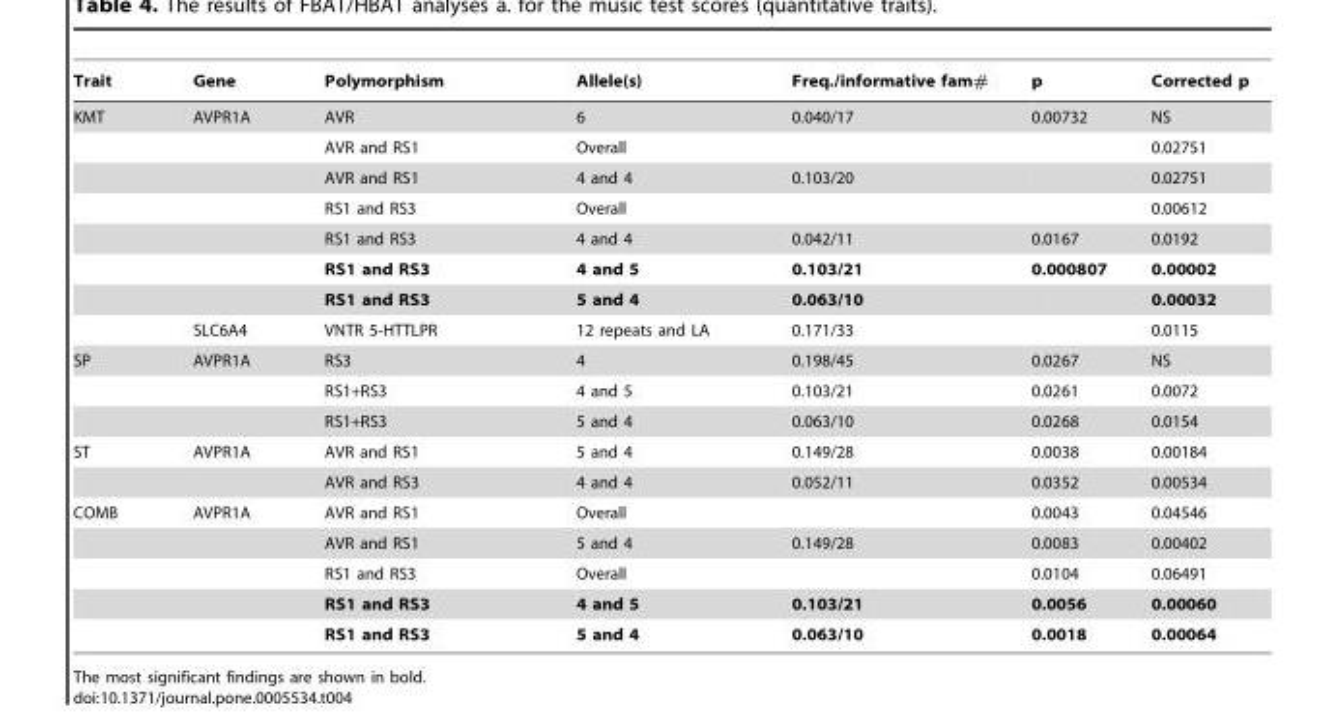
<table><thead><tr><td>Trait</td><td>Gene</td><td>Polymorphism</td><td>Allele(s)</td><td>Freq./informative fam#</td><td>p</td><td>Corrected p</td></tr></thead><tbody><tr><td rowspan="8">KMT</td><td>AVPR1A</td><td>AVR</td><td>6</td><td>0.040/17</td><td>0.00732</td><td>NS</td></tr><tr><td></td><td>AVR and RS1</td><td>Overall</td><td></td><td></td><td>0.02751</td></tr><tr><td></td><td>AVR and RS1</td><td>4 and 4</td><td>0.103/20</td><td></td><td>0.02751</td></tr><tr><td></td><td>RS1 and RS3</td><td>Overall</td><td></td><td></td><td>0.00612</td></tr><tr><td></td><td>RS1 and RS3</td><td>4 and 4</td><td>0.042/11</td><td>0.0167</td><td>0.0192</td></tr><tr><td></td><td>RS1 and RS3</td><td>4 and 5</td><td>0.103/21</td><td>0.000807</td><td>0.00002</td></tr><tr><td></td><td>RS1 and RS3</td><td>5 and 4</td><td>0.063/10</td><td></td><td>0.00032</td></tr><tr><td>SLC6A4</td><td>VNTR 5-HTTLPR</td><td>12 repeats and LA</td><td>0.171/33</td><td></td><td>0.0115</td></tr><tr><td rowspan="3">SP</td><td>AVPR1A</td><td>RS3</td><td>4</td><td>0.198/45</td><td>0.0267</td><td>NS</td></tr><tr><td></td><td>RS1+RS3</td><td>4 and 5</td><td>0.103/21</td><td>0.0261</td><td>0.0072</td></tr><tr><td></td><td>RS1+RS3</td><td>5 and 4</td><td>0.063/10</td><td>0.0268</td><td>0.0154</td></tr><tr><td rowspan="2">ST</td><td>AVPR1A</td><td>AVR and RS1</td><td>5 and 4</td><td>0.149/28</td><td>0.0038</td><td>0.00184</td></tr><tr><td></td><td>AVR and RS3</td><td>4 and 4</td><td>0.052/11</td><td>0.0352</td><td>0.00534</td></tr><tr><td rowspan="5">COMB</td><td>AVPR1A</td><td>AVR and RS1</td><td>Overall</td><td></td><td>0.0043</td><td>0.04546</td></tr><tr><td></td><td>AVR and RS1</td><td>5 and 4</td><td>0.149/28</td><td>0.0083</td><td>0.00402</td></tr><tr><td></td><td>RS1 and RS3</td><td>Overall</td><td></td><td>0.0104</td><td>0.06491</td></tr><tr><td></td><td>RS1 and RS3</td><td>4 and 5</td><td>0.103/21</td><td>0.0056</td><td>0.00060</td></tr><tr><td></td><td>RS1 and RS3</td><td>5 and 4</td><td>0.063/10</td><td>0.0018</td><td>0.00064</td></tr></tbody></table>